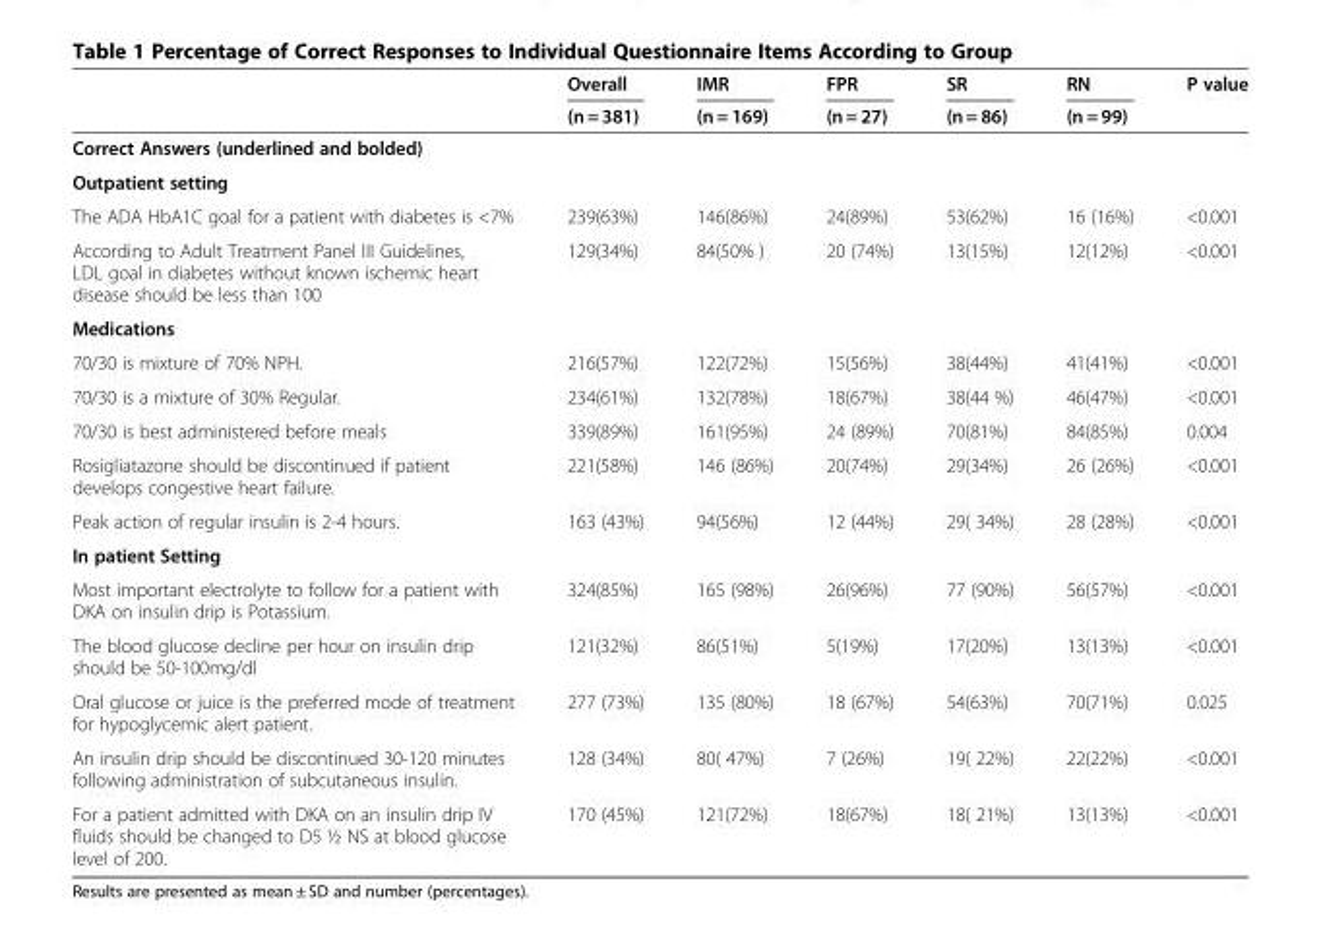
<table><thead><tr><td rowspan="2"></td><td rowspan="2">Overall (n = 381)</td><td rowspan="2">IMR (n = 169)</td><td rowspan="2">FPR (n = 27)</td><td rowspan="2">SR (n = 86)</td><td rowspan="2">RN (n = 99)</td><td rowspan="2">P value</td></tr><tr></tr></thead><tbody><tr><td colspan="7">Correct Answers (underlined and bolded)</td></tr><tr><td colspan="7">Outpatient setting</td></tr><tr><td>The ADA HbA1C goal for a patient with diabetes is &lt;7%</td><td>239(63%)</td><td>146(86%)</td><td>24(89%)</td><td>53(62%)</td><td>16 (16%)</td><td>&lt;0.001</td></tr><tr><td>According to Adult Treatment Panel III Guidelines, LDL goal in diabetes without known ischemic heart disease should be less than 100</td><td>129(34%)</td><td>84(50% )</td><td>20 (74%)</td><td>13(15%)</td><td>12(12%)</td><td>&lt;0.001</td></tr><tr><td colspan="7">Medications</td></tr><tr><td>70/30 is mixture of 70% NPH.</td><td>216(57%)</td><td>122(72%)</td><td>15(56%)</td><td>38(44%)</td><td>41(41%)</td><td>&lt;0.001</td></tr><tr><td>70/30 is a mixture of 30% Regular.</td><td>234(61%)</td><td>132(78%)</td><td>18(67%)</td><td>38(44 %)</td><td>46(47%)</td><td>&lt;0.001</td></tr><tr><td>70/30 is best administered before meals</td><td>339(89%)</td><td>161(95%)</td><td>24 (89%)</td><td>70(81%)</td><td>84(85%)</td><td>0.004</td></tr><tr><td>Rosigliatazone should be discontinued if patient develops congestive heart failure.</td><td>221(58%)</td><td>146 (86%)</td><td>20(74%)</td><td>29(34%)</td><td>26 (26%)</td><td>&lt;0.001</td></tr><tr><td>Peak action of regular insulin is 2-4 hours.</td><td>163 (43%)</td><td>94(56%)</td><td>12 (44%)</td><td>29( 34%)</td><td>28 (28%)</td><td>&lt;0.001</td></tr><tr><td colspan="7">In patient Setting</td></tr><tr><td>Most important electrolyte to follow for a patient with DKA on insulin drip is Potassium.</td><td>324(85%)</td><td>165 (98%)</td><td>26(96%)</td><td>77 (90%)</td><td>56(57%)</td><td>&lt;0.001</td></tr><tr><td>The blood glucose decline per hour on insulin drip should be 50-100mg/dl</td><td>121(32%)</td><td>86(51%)</td><td>5(19%)</td><td>17(20%)</td><td>13(13%)</td><td>&lt;0.001</td></tr><tr><td>Oral glucose or juice is the preferred mode of treatment for hypoglycemic alert patient.</td><td>277 (73%)</td><td>135 (80%)</td><td>18 (67%)</td><td>54(63%)</td><td>70(71%)</td><td>0.025</td></tr><tr><td>An insulin drip should be discontinued 30-120 minutes following administration of subcutaneous insulin.</td><td>128 (34%)</td><td>80( 47%)</td><td>7 (26%)</td><td>19( 22%)</td><td>22(22%)</td><td>&lt;0.001</td></tr><tr><td>For a patient admitted with DKA on an insulin drip IV fluids should be changed to D5 ½ NS at blood glucose level of 200.</td><td>170 (45%)</td><td>121(72%)</td><td>18(67%)</td><td>18( 21%)</td><td>13(13%)</td><td>&lt;0.001</td></tr></tbody></table>